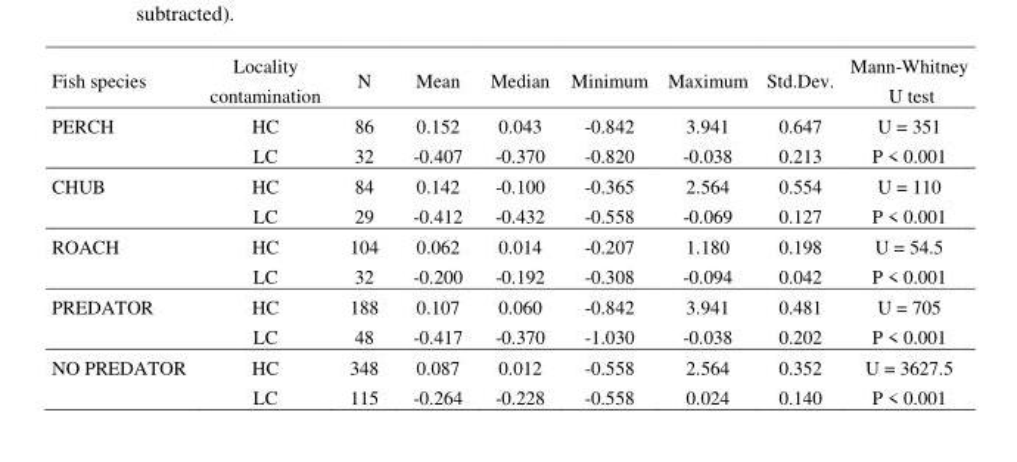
<table><thead><tr><td>Fish species</td><td>Locality contamination</td><td>N</td><td>Mean</td><td>Median</td><td>Minimum</td><td>Maximum</td><td>Std.Dev.</td><td>Mann-Whitney U test</td></tr></thead><tbody><tr><td rowspan="2">PERCH</td><td>HC</td><td>86</td><td>0.152</td><td>0.043</td><td>-0.842</td><td>3.941</td><td>0.647</td><td>U = 351</td></tr><tr><td>LC</td><td>32</td><td>-0.407</td><td>-0.370</td><td>-0.820</td><td>-0.038</td><td>0.213</td><td>P &lt; 0.001</td></tr><tr><td rowspan="2">CHUB</td><td>HC</td><td>84</td><td>0.142</td><td>-0.100</td><td>-0.365</td><td>2.564</td><td>0.554</td><td>U = 110</td></tr><tr><td>LC</td><td>29</td><td>-0.412</td><td>-0.432</td><td>-0.558</td><td>-0.069</td><td>0.127</td><td>P &lt; 0.001</td></tr><tr><td rowspan="2">ROACH</td><td>HC</td><td>104</td><td>0.062</td><td>0.014</td><td>-0.207</td><td>1.180</td><td>0.198</td><td>U = 54.5</td></tr><tr><td>LC</td><td>32</td><td>-0.200</td><td>-0.192</td><td>-0.308</td><td>-0.094</td><td>0.042</td><td>P &lt; 0.001</td></tr><tr><td rowspan="2">PREDATOR</td><td>HC</td><td>188</td><td>0.107</td><td>0.060</td><td>-0.842</td><td>3.941</td><td>0.481</td><td>U = 705</td></tr><tr><td>LC</td><td>48</td><td>-0.417</td><td>-0.370</td><td>-1.030</td><td>-0.038</td><td>0.202</td><td>P &lt; 0.001</td></tr><tr><td rowspan="2">NO PREDATOR</td><td>HC</td><td>348</td><td>0.087</td><td>0.012</td><td>-0.558</td><td>2.564</td><td>0.352</td><td>U = 3627.5</td></tr><tr><td>LC</td><td>115</td><td>-0.264</td><td>-0.228</td><td>-0.558</td><td>0.024</td><td>0.140</td><td>P &lt; 0.001</td></tr></tbody></table>